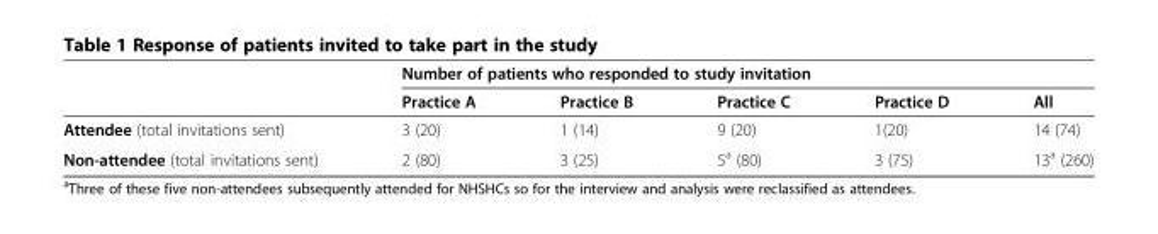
<table><thead><tr><td rowspan="2"></td><td colspan="5">Number of patients who responded to study invitation</td></tr><tr><td>Practice A</td><td>Practice B</td><td>Practice C</td><td>Practice D</td><td>All</td></tr></thead><tbody><tr><td>Attendee (total invitations sent)</td><td>3 (20)</td><td>1 (14)</td><td>9 (20)</td><td>1(20)</td><td>14 (74)</td></tr><tr><td>Non-attendee (total invitations sent)</td><td>2 (80)</td><td>3 (25)</td><td>5<sup>a</sup> (80)</td><td>3 (75)</td><td>13<sup>a</sup> (260)</td></tr></tbody></table>